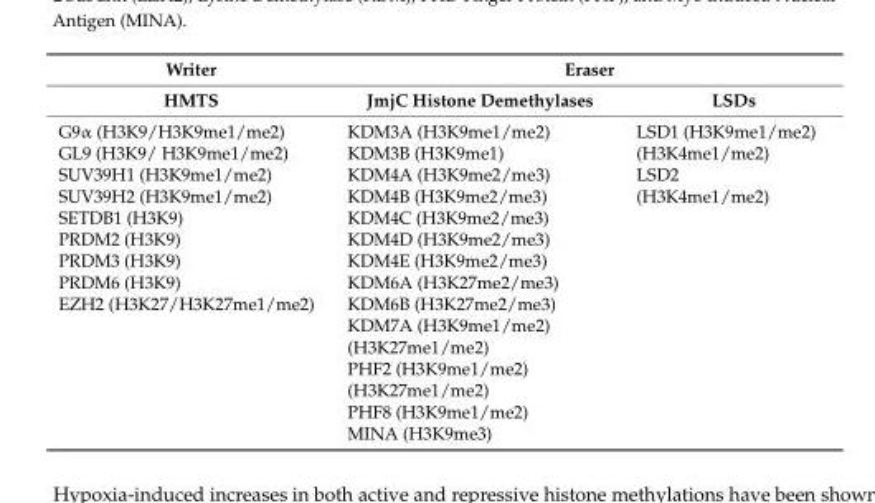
<table><thead><tr><td rowspan="2">Writer HMTS</td><td colspan="2">Eraser</td></tr><tr><td>JmjC Histone Demethylases</td><td>LSDs</td></tr></thead><tbody><tr><td>G9α (H3K9/H3K9me1/me2)</td><td>KDM3A (H3K9me1/me2)</td><td>LSD1 (H3K9me1/me2)</td></tr><tr><td>GL9 (H3K9/ H3K9me1/me2)</td><td>KDM3B (H3K9me1)</td><td>(H3K4me1/me2)</td></tr><tr><td>SUV39H1 (H3K9me1/me2)</td><td>KDM4A (H3K9me2/me3)</td><td>LSD2</td></tr><tr><td>SUV39H2 (H3K9me1/me2)</td><td>KDM4B (H3K9me2/me3)</td><td>(H3K4me1/me2)</td></tr><tr><td>SETDB1 (H3K9)</td><td>KDM4C (H3K9me2/me3)</td><td></td></tr><tr><td>PRDM2 (H3K9)</td><td>KDM4D (H3K9me2/me3)</td><td></td></tr><tr><td>PRDM3 (H3K9)</td><td>KDM4E (H3K9me2/me3)</td><td></td></tr><tr><td>PRDM6 (H3K9)</td><td>KDM6A (H3K27me2/me3)</td><td></td></tr><tr><td rowspan="7">EZH2 (H3K27/H3K27me1/me2)</td><td>KDM6B (H3K27me2/me3)</td><td></td></tr><tr><td>KDM7A (H3K9me1/me2)</td><td></td></tr><tr><td>(H3K27me1/me2)</td><td></td></tr><tr><td>PHF2 (H3K9me1/me2)</td><td></td></tr><tr><td>(H3K27me1/me2)</td><td></td></tr><tr><td>PHF8 (H3K9me1/me2)</td><td></td></tr><tr><td>MINA (H3K9me3)</td><td></td></tr></tbody></table>